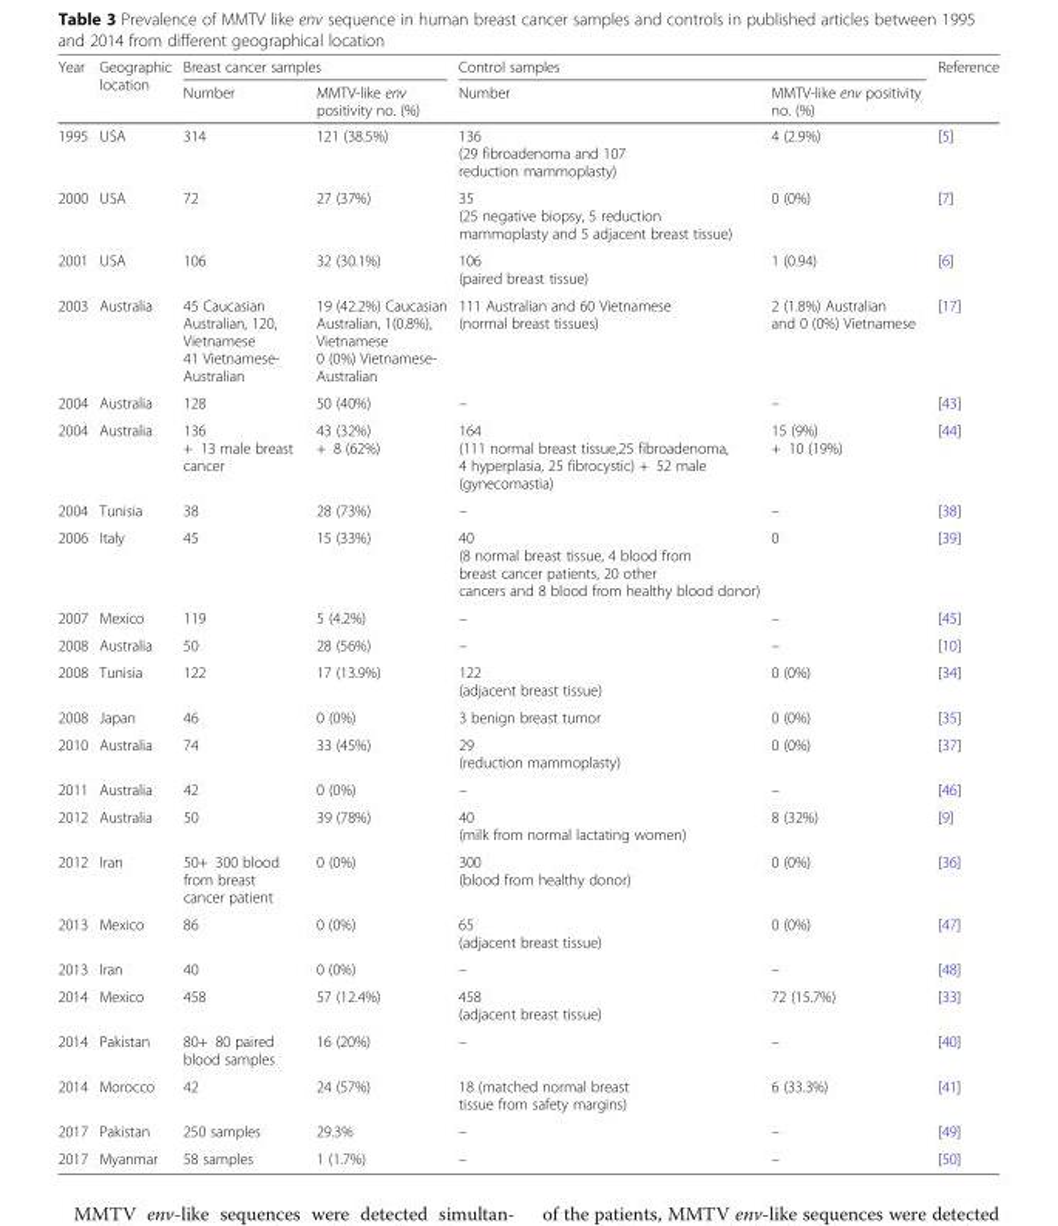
<table><thead><tr><td rowspan="2">Year</td><td rowspan="2">Geographic location</td><td colspan="2">Breast cancer samples</td><td colspan="2">Control samples</td><td rowspan="2">Reference</td></tr><tr><td>Number</td><td>MMTV-like env positivity no. (%)</td><td>Number</td><td>MMTV-like env positivity no. (%)</td></tr></thead><tbody><tr><td>1995</td><td>USA</td><td>314</td><td>121 (38.5%)</td><td>136 (29 fibroadenoma and 107 reduction mammoplasty)</td><td>4 (2.9%)</td><td>[5]</td></tr><tr><td>2000</td><td>USA</td><td>72</td><td>27 (37%)</td><td>35 (25 negative biopsy, 5 reduction mammoplasty and 5 adjacent breast tissue)</td><td>0 (0%)</td><td>[7]</td></tr><tr><td>2001</td><td>USA</td><td>106</td><td>32 (30.1%)</td><td>106 (paired breast tissue)</td><td>1 (0.94)</td><td>[6]</td></tr><tr><td>2003</td><td>Australia</td><td>45 Caucasian Australian, 120, Vietnamese 41 Vietnamese- Australian</td><td>19 (42.2%) Caucasian Australian, 1(0.8%), Vietnamese 0 (0%) Vietnamese- Australian</td><td>111 Australian and 60 Vietnamese (normal breast tissues)</td><td>2 (1.8%) Australian and 0 (0%) Vietnamese</td><td>[17]</td></tr><tr><td>2004</td><td>Australia</td><td>128</td><td>50 (40%)</td><td>–</td><td>–</td><td>[43]</td></tr><tr><td>2004</td><td>Australia</td><td>136 + 13 male breast cancer</td><td>43 (32%) + 8 (62%)</td><td>164 (111 normal breast tissue,25 fibroadenoma, 4 hyperplasia, 25 fibrocystic) + 52 male (gynecomastia)</td><td>15 (9%) + 10 (19%)</td><td>[44]</td></tr><tr><td>2004</td><td>Tunisia</td><td>38</td><td>28 (73%)</td><td>–</td><td>–</td><td>[38]</td></tr><tr><td>2006</td><td>Italy</td><td>45</td><td>15 (33%)</td><td>40 (8 normal breast tissue, 4 blood from breast cancer patients, 20 other cancers and 8 blood from healthy blood donor)</td><td>0</td><td>[39]</td></tr><tr><td>2007</td><td>Mexico</td><td>119</td><td>5 (4.2%)</td><td>–</td><td>–</td><td>[45]</td></tr><tr><td>2008</td><td>Australia</td><td>50</td><td>28 (56%)</td><td>–</td><td>–</td><td>[10]</td></tr><tr><td>2008</td><td>Tunisia</td><td>122</td><td>17 (13.9%)</td><td>122 (adjacent breast tissue)</td><td>0 (0%)</td><td>[34]</td></tr><tr><td>2008</td><td>Japan</td><td>46</td><td>0 (0%)</td><td>3 benign breast tumor</td><td>0 (0%)</td><td>[35]</td></tr><tr><td>2010</td><td>Australia</td><td>74</td><td>33 (45%)</td><td>29 (reduction mammoplasty)</td><td>0 (0%)</td><td>[37]</td></tr><tr><td>2011</td><td>Australia</td><td>42</td><td>0 (0%)</td><td>–</td><td>–</td><td>[46]</td></tr><tr><td>2012</td><td>Australia</td><td>50</td><td>39 (78%)</td><td>40 (milk from normal lactating women)</td><td>8 (32%)</td><td>[9]</td></tr><tr><td>2012</td><td>Iran</td><td>50+ 300 blood from breast cancer patient</td><td>0 (0%)</td><td>300 (blood from healthy donor)</td><td>0 (0%)</td><td>[36]</td></tr><tr><td>2013</td><td>Mexico</td><td>86</td><td>0 (0%)</td><td>65 (adjacent breast tissue)</td><td>0 (0%)</td><td>[47]</td></tr><tr><td>2013</td><td>Iran</td><td>40</td><td>0 (0%)</td><td>–</td><td>–</td><td>[48]</td></tr><tr><td>2014</td><td>Mexico</td><td>458</td><td>57 (12.4%)</td><td>458 (adjacent breast tissue)</td><td>72 (15.7%)</td><td>[33]</td></tr><tr><td>2014</td><td>Pakistan</td><td>80+ 80 paired blood samples</td><td>16 (20%)</td><td>–</td><td>–</td><td>[40]</td></tr><tr><td>2014</td><td>Morocco</td><td>42</td><td>24 (57%)</td><td>18 (matched normal breast tissue from safety margins)</td><td>6 (33.3%)</td><td>[41]</td></tr><tr><td>2017</td><td>Pakistan</td><td>250 samples</td><td>29.3%</td><td>–</td><td>–</td><td>[49]</td></tr><tr><td>2017</td><td>Myanmar</td><td>58 samples</td><td>1 (1.7%)</td><td>–</td><td>–</td><td>[50]</td></tr></tbody></table>